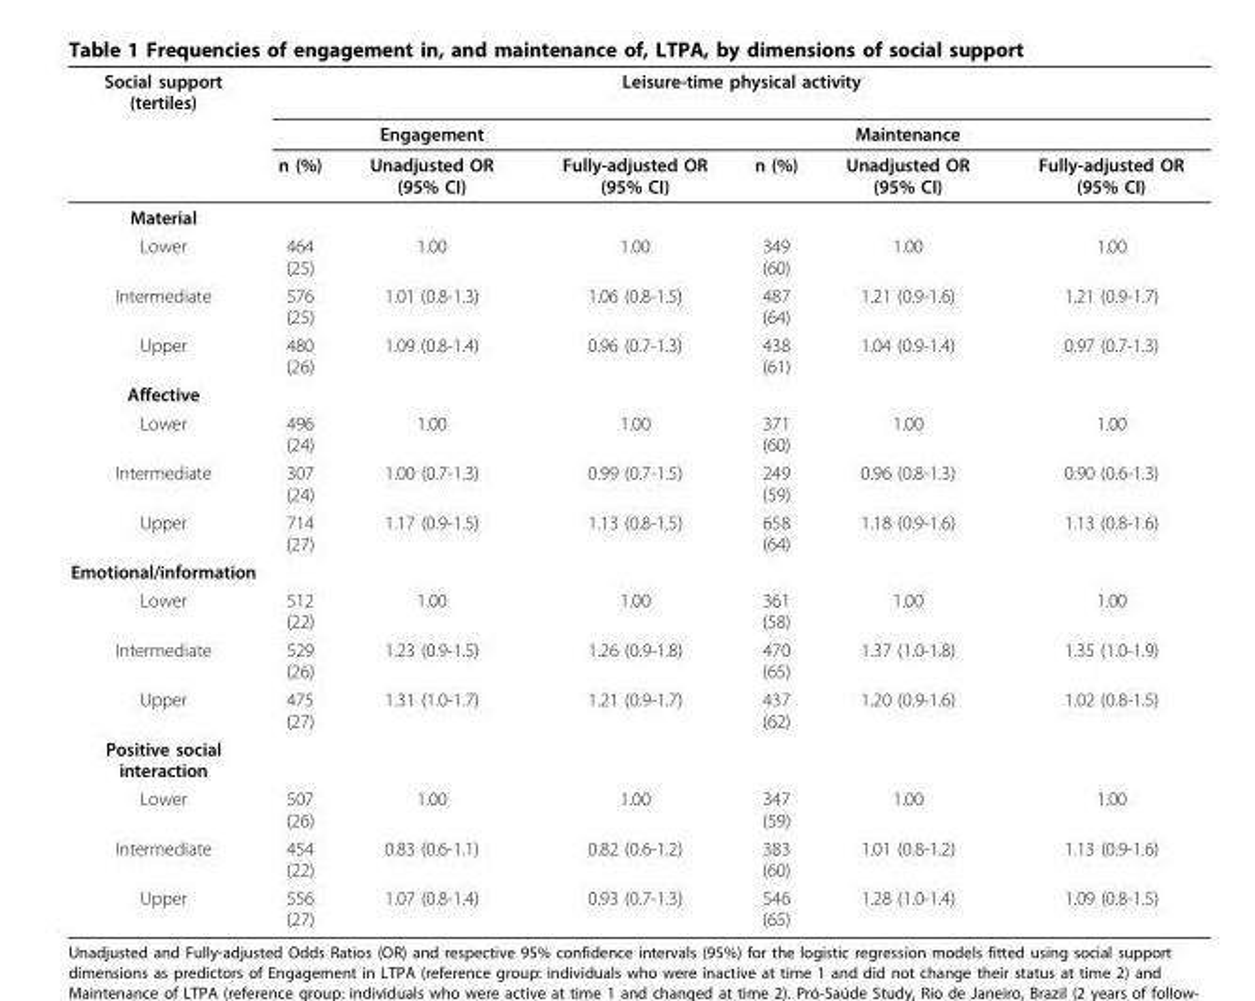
<table><thead><tr><td rowspan="3">Social support (tertiles)</td><td colspan="6">Leisure-time physical activity</td></tr><tr><td rowspan="2">n (%)</td><td rowspan="2">Engagement Unadjusted OR (95% CI)</td><td rowspan="2">Fully-adjusted OR (95% CI)</td><td rowspan="2">n (%)</td><td rowspan="2">Maintenance Unadjusted OR (95% CI)</td><td rowspan="2">Fully-adjusted OR (95% CI)</td></tr><tr></tr></thead><tbody><tr><td colspan="7">Material</td></tr><tr><td>Lower</td><td>464 (25)</td><td>1.00</td><td>1.00</td><td>349 (60)</td><td>1.00</td><td>1.00</td></tr><tr><td>Intermediate</td><td>576 (25)</td><td>1.01 (0.8-1.3)</td><td>1.06 (0.8-1.5)</td><td>487 (64)</td><td>1.21 (0.9-1.6)</td><td>1.21 (0.9-1.7)</td></tr><tr><td>Upper</td><td>480 (26)</td><td>1.09 (0.8-1.4)</td><td>0.96 (0.7-1.3)</td><td>438 (61)</td><td>1.04 (0.9-1.4)</td><td>0.97 (0.7-1.3)</td></tr><tr><td colspan="7">Affective</td></tr><tr><td>Lower</td><td>496 (24)</td><td>1.00</td><td>1.00</td><td>371 (60)</td><td>1.00</td><td>1.00</td></tr><tr><td>Intermediate</td><td>307 (24)</td><td>1.00 (0.7-1.3)</td><td>0.99 (0.7-1.5)</td><td>249 (59)</td><td>0.96 (0.8-1.3)</td><td>0.90 (0.6-1.3)</td></tr><tr><td>Upper</td><td>714 (27)</td><td>1.17 (0.9-1.5)</td><td>1.13 (0.8-1.5)</td><td>658 (64)</td><td>1.18 (0.9-1.6)</td><td>1.13 (0.8-1.6)</td></tr><tr><td colspan="7">Emotional/information</td></tr><tr><td>Lower</td><td>512 (22)</td><td>1.00</td><td>1.00</td><td>361 (58)</td><td>1.00</td><td>1.00</td></tr><tr><td>Intermediate</td><td>529 (26)</td><td>1.23 (0.9-1.5)</td><td>1.26 (0.9-1.8)</td><td>470 (65)</td><td>1.37 (1.0-1.8)</td><td>1.35 (1.0-1.9)</td></tr><tr><td>Upper</td><td>475 (27)</td><td>1.31 (1.0-1.7)</td><td>1.21 (0.9-1.7)</td><td>437 (62)</td><td>1.20 (0.9-1.6)</td><td>1.02 (0.8-1.5)</td></tr><tr><td colspan="7">Positive social interaction</td></tr><tr><td>Lower</td><td>507 (26)</td><td>1.00</td><td>1.00</td><td>347 (59)</td><td>1.00</td><td>1.00</td></tr><tr><td>Intermediate</td><td>454 (22)</td><td>0.83 (0.6-1.1)</td><td>0.82 (0.6-1.2)</td><td>383 (60)</td><td>1.01 (0.8-1.2)</td><td>1.13 (0.9-1.6)</td></tr><tr><td>Upper</td><td>556 (27)</td><td>1.07 (0.8-1.4)</td><td>0.93 (0.7-1.3)</td><td>546 (65)</td><td>1.28 (1.0-1.4)</td><td>1.09 (0.8-1.5)</td></tr></tbody></table>